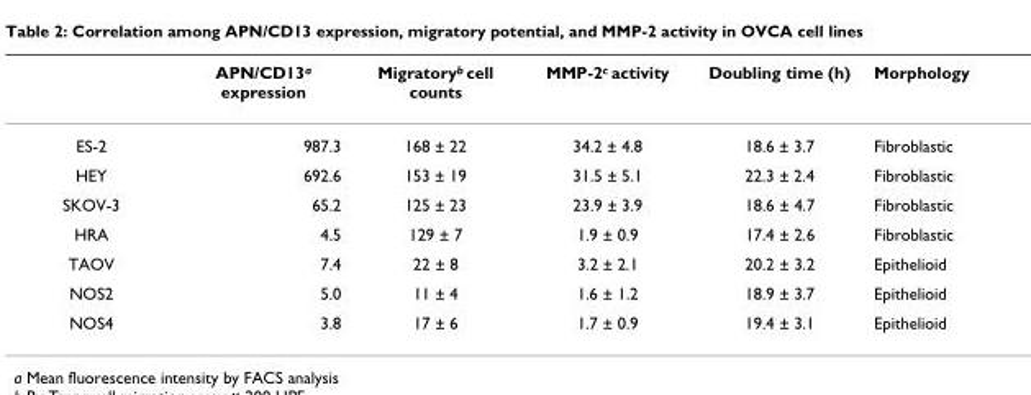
<table><thead><tr><td></td><td>APN/CD13<sup>a</sup> expression</td><td>Migratory<sup>b</sup> cell counts</td><td>MMP-2<sup>c</sup> activity</td><td>Doubling time (h)</td><td>Morphology</td></tr></thead><tbody><tr><td>ES-2</td><td>987.3</td><td>168 ± 22</td><td>34.2 ± 4.8</td><td>18.6 ± 3.7</td><td>Fibroblastic</td></tr><tr><td>HEY</td><td>692.6</td><td>153 ± 19</td><td>31.5 ± 5.1</td><td>22.3 ± 2.4</td><td>Fibroblastic</td></tr><tr><td>SKOV-3</td><td>65.2</td><td>125 ± 23</td><td>23.9 ± 3.9</td><td>18.6 ± 4.7</td><td>Fibroblastic</td></tr><tr><td>HRA</td><td>4.5</td><td>129 ± 7</td><td>1.9 ± 0.9</td><td>17.4 ± 2.6</td><td>Fibroblastic</td></tr><tr><td>TAOV</td><td>7.4</td><td>22 ± 8</td><td>3.2 ± 2.1</td><td>20.2 ± 3.2</td><td>Epithelioid</td></tr><tr><td>NOS2</td><td>5.0</td><td>11 ± 4</td><td>1.6 ± 1.2</td><td>18.9 ± 3.7</td><td>Epithelioid</td></tr><tr><td>NOS4</td><td>3.8</td><td>17 ± 6</td><td>1.7 ± 0.9</td><td>19.4 ± 3.1</td><td>Epithelioid</td></tr></tbody></table>